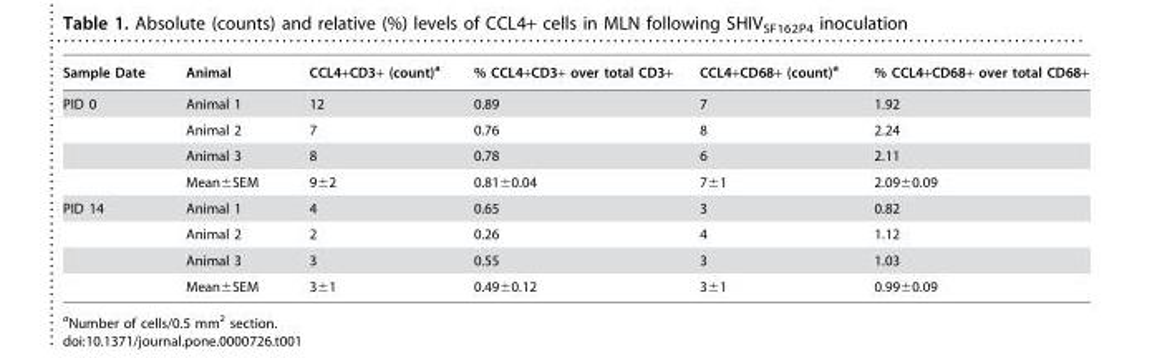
<table><thead><tr><td>Sample Date</td><td>Animal</td><td>CCL4+CD3+ (count)<sup>a</sup></td><td>% CCL4+CD3+ over total CD3+</td><td>CCL4+CD68+ (count)<sup>a</sup></td><td>% CCL4+CD68+ over total CD68+</td></tr></thead><tbody><tr><td rowspan="4">PID 0</td><td>Animal 1</td><td>12</td><td>0.89</td><td>7</td><td>1.92</td></tr><tr><td>Animal 2</td><td>7</td><td>0.76</td><td>8</td><td>2.24</td></tr><tr><td>Animal 3</td><td>8</td><td>0.78</td><td>6</td><td>2.11</td></tr><tr><td>Mean±SEM</td><td>9±2</td><td>0.81±0.04</td><td>7±1</td><td>2.09±0.09</td></tr><tr><td rowspan="4">PID 14</td><td>Animal 1</td><td>4</td><td>0.65</td><td>3</td><td>0.82</td></tr><tr><td>Animal 2</td><td>2</td><td>0.26</td><td>4</td><td>1.12</td></tr><tr><td>Animal 3</td><td>3</td><td>0.55</td><td>3</td><td>1.03</td></tr><tr><td>Mean±SEM</td><td>3±1</td><td>0.49±0.12</td><td>3±1</td><td>0.99±0.09</td></tr></tbody></table>